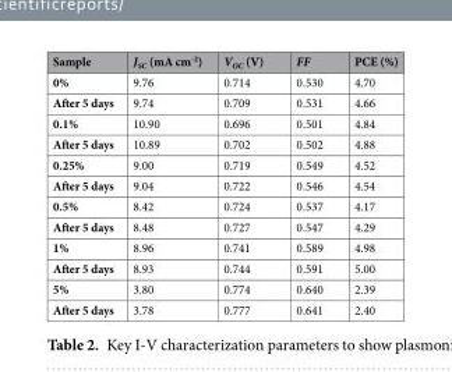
<table><thead><tr><td>Sample</td><td>J<sub>SC</sub> (mA cm<sup>-2</sup>)</td><td>V<sub>OC</sub> (V)</td><td>FF</td><td>PCE (%)</td></tr></thead><tbody><tr><td>0%</td><td>9.76</td><td>0.714</td><td>0.530</td><td>4.70</td></tr><tr><td>After 5 days</td><td>9.74</td><td>0.709</td><td>0.531</td><td>4.66</td></tr><tr><td>0.1%</td><td>10.90</td><td>0.696</td><td>0.501</td><td>4.84</td></tr><tr><td>After 5 days</td><td>10.89</td><td>0.702</td><td>0.502</td><td>4.88</td></tr><tr><td>0.25%</td><td>9.00</td><td>0.719</td><td>0.549</td><td>4.52</td></tr><tr><td>After 5 days</td><td>9.04</td><td>0.722</td><td>0.546</td><td>4.54</td></tr><tr><td>0.5%</td><td>8.42</td><td>0.724</td><td>0.537</td><td>4.17</td></tr><tr><td>After 5 days</td><td>8.48</td><td>0.727</td><td>0.547</td><td>4.29</td></tr><tr><td>1%</td><td>8.96</td><td>0.741</td><td>0.589</td><td>4.98</td></tr><tr><td>After 5 days</td><td>8.93</td><td>0.744</td><td>0.591</td><td>5.00</td></tr><tr><td>5%</td><td>3.80</td><td>0.774</td><td>0.640</td><td>2.39</td></tr><tr><td>After 5 days</td><td>3.78</td><td>0.777</td><td>0.641</td><td>2.40</td></tr></tbody></table>